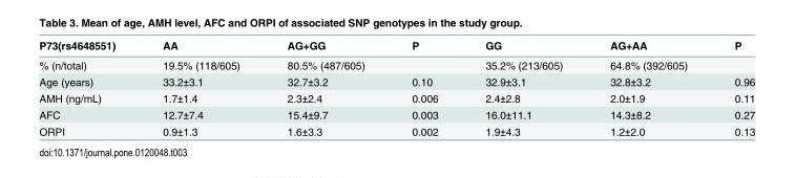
<table><thead><tr><td>P73(rs4648551)</td><td>AA</td><td>AG+GG</td><td>P</td><td>GG</td><td>AG+AA</td><td>P</td></tr></thead><tbody><tr><td>% (n/total)</td><td>19.5% (118/605)</td><td>80.5% (487/605)</td><td></td><td>35.2% (213/605)</td><td>64.8% (392/605)</td><td></td></tr><tr><td>Age (years)</td><td>33.2±3.1</td><td>32.7±3.2</td><td>0.10</td><td>32.9±3.1</td><td>32.8±3.2</td><td>0.96</td></tr><tr><td>AMH (ng/mL)</td><td>1.7±1.4</td><td>2.3±2.4</td><td>0.006</td><td>2.4±2.8</td><td>2.0±1.9</td><td>0.11</td></tr><tr><td>AFC</td><td>12.7±7.4</td><td>15.4±9.7</td><td>0.003</td><td>16.0±11.1</td><td>14.3±8.2</td><td>0.27</td></tr><tr><td>ORPI</td><td>0.9±1.3</td><td>1.6±3.3</td><td>0.002</td><td>1.9±4.3</td><td>1.2±2.0</td><td>0.13</td></tr></tbody></table>